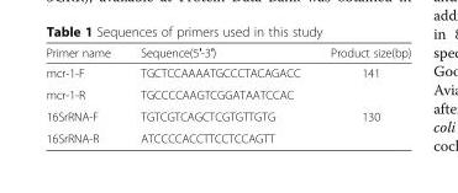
<table><thead><tr><td>Primer name</td><td>Sequence(5′-3′)</td><td>Product size(bp)</td></tr></thead><tbody><tr><td>mcr-1-F</td><td>TGCTCCAAAATGCCCTACAGACC</td><td>141</td></tr><tr><td>mcr-1-R</td><td>TGCCCCAAGTCGGATAATCCAC</td><td></td></tr><tr><td>16SrRNA-F</td><td>TGTCGTCAGCTCGTGTTGTG</td><td>130</td></tr><tr><td>16SrRNA-R</td><td>ATCCCCACCTTCCTCCAGTT</td><td></td></tr></tbody></table>